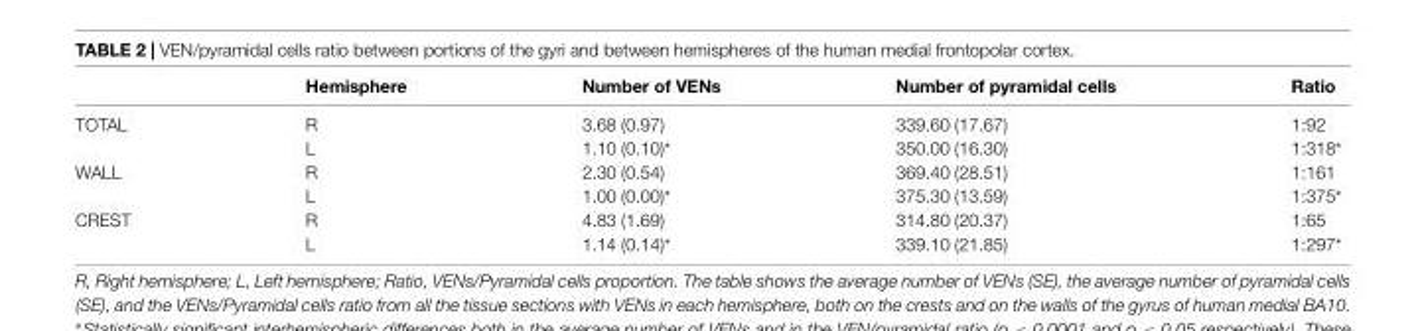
<table><thead><tr><td></td><td>Hemisphere</td><td>Number of VENs</td><td>Number of pyramidal cells</td><td>Ratio</td></tr></thead><tbody><tr><td rowspan="2">TOTAL</td><td>R</td><td>3.68 (0.97)</td><td>339.60 (17.67)</td><td>1:92</td></tr><tr><td>L</td><td>1.10 (0.10)∗</td><td>350.00 (16.30)</td><td>1:318∗</td></tr><tr><td rowspan="2">WALL</td><td>R</td><td>2.30 (0.54)</td><td>369.40 (28.51)</td><td>1:161</td></tr><tr><td>L</td><td>1.00 (0.00)∗</td><td>375.30 (13.59)</td><td>1:375∗</td></tr><tr><td rowspan="2">CREST</td><td>R</td><td>4.83 (1.69)</td><td>314.80 (20.37)</td><td>1:65</td></tr><tr><td>L</td><td>1.14 (0.14)∗</td><td>339.10 (21.85)</td><td>1:297∗</td></tr></tbody></table>